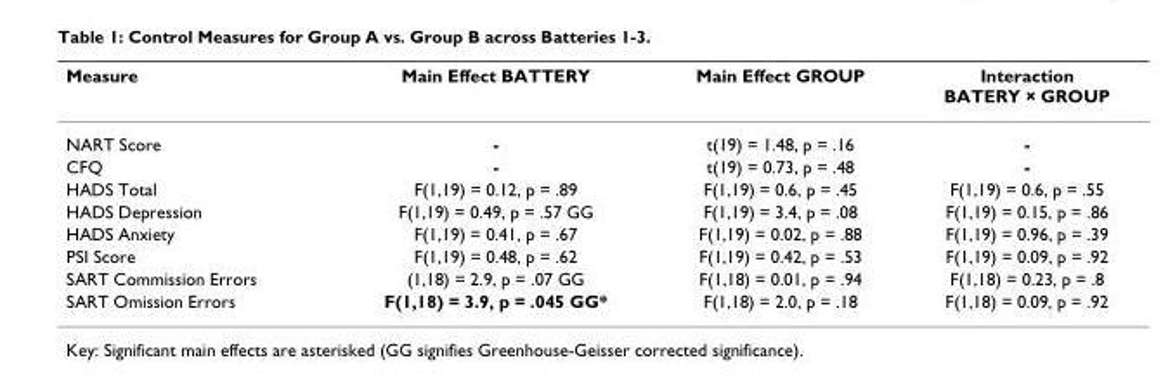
<table><thead><tr><td>Measure</td><td>Main Effect BATTERY</td><td>Main Effect GROUP</td><td>Interaction BATERY × GROUP</td></tr></thead><tbody><tr><td>NART Score</td><td>-</td><td>t(19) = 1.48, p = .16</td><td>-</td></tr><tr><td>CFQ</td><td>-</td><td>t(19) = 0.73, p = .48</td><td>-</td></tr><tr><td>HADS Total</td><td>F(1,19) = 0.12, p = .89</td><td>F(1,19) = 0.6, p = .45</td><td>F(1,19) = 0.6, p = .55</td></tr><tr><td>HADS Depression</td><td>F(1,19) = 0.49, p = .57 GG</td><td>F(1,19) = 3.4, p = .08</td><td>F(1,19) = 0.15, p = .86</td></tr><tr><td>HADS Anxiety</td><td>F(1,19) = 0.41, p = .67</td><td>F(1,19) = 0.02, p = .88</td><td>F(1,19) = 0.96, p = .39</td></tr><tr><td>PSI Score</td><td>F(1,19) = 0.48, p = .62</td><td>F(1,19) = 0.42, p = .53</td><td>F(1,19) = 0.09, p = .92</td></tr><tr><td>SART Commission Errors</td><td>(1,18) = 2.9, p = .07 GG</td><td>F(1,18) = 0.01, p = .94</td><td>F(1,18) = 0.23, p = .8</td></tr><tr><td>SART Omission Errors</td><td>F(1,18) = 3.9, p = .045 GG*</td><td>F(1,18) = 2.0, p = .18</td><td>F(1,18) = 0.09, p = .92</td></tr></tbody></table>